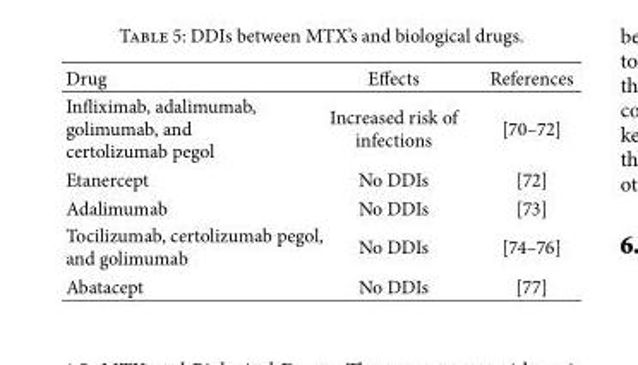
<table><thead><tr><td>Drug</td><td>Effects</td><td>References</td></tr></thead><tbody><tr><td>Infliximab, adalimumab, golimumab, and certolizumab pegol</td><td>Increased risk of infections</td><td>[70–72]</td></tr><tr><td>Etanercept</td><td>No DDIs</td><td>[72]</td></tr><tr><td>Adalimumab</td><td>No DDIs</td><td>[73]</td></tr><tr><td>Tocilizumab, certolizumab pegol, and golimumab</td><td>No DDIs</td><td>[74–76]</td></tr><tr><td>Abatacept</td><td>No DDIs</td><td>[77]</td></tr></tbody></table>